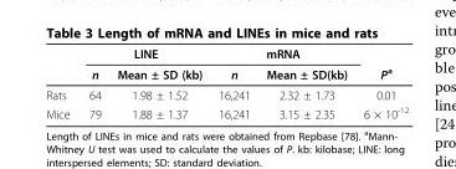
<table><thead><tr><td rowspan="2"></td><td colspan="2">LINE</td><td colspan="2">mRNA</td><td rowspan="2">P<sup>a</sup></td></tr><tr><td>n</td><td>Mean ± SD (kb)</td><td>n</td><td>Mean ± SD(kb)</td></tr></thead><tbody><tr><td>Rats</td><td>64</td><td>1.98 ± 1.52</td><td>16,241</td><td>2.32 ± 1.73</td><td>0.01</td></tr><tr><td>Mice</td><td>79</td><td>1.88 ± 1.37</td><td>16,241</td><td>3.15 ± 2.35</td><td>6 × 10<sup>-12</sup></td></tr></tbody></table>